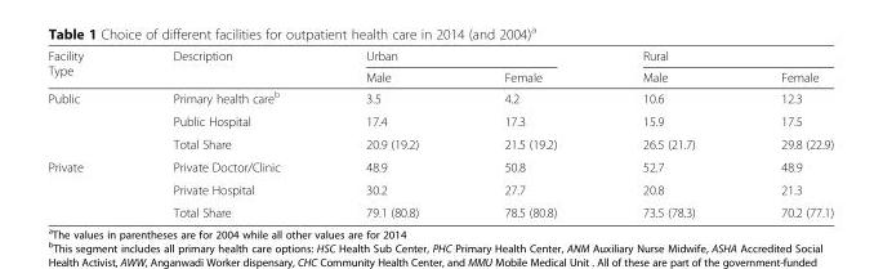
<table><thead><tr><td rowspan="2">Facility Type</td><td rowspan="2">Description</td><td colspan="2">Urban</td><td colspan="2">Rural</td></tr><tr><td>Male</td><td>Female</td><td>Male</td><td>Female</td></tr></thead><tbody><tr><td rowspan="3">Public</td><td>Primary health care<sup>b</sup></td><td>3.5</td><td>4.2</td><td>10.6</td><td>12.3</td></tr><tr><td>Public Hospital</td><td>17.4</td><td>17.3</td><td>15.9</td><td>17.5</td></tr><tr><td>Total Share</td><td>20.9 (19.2)</td><td>21.5 (19.2)</td><td>26.5 (21.7)</td><td>29.8 (22.9)</td></tr><tr><td rowspan="3">Private</td><td>Private Doctor/Clinic</td><td>48.9</td><td>50.8</td><td>52.7</td><td>48.9</td></tr><tr><td>Private Hospital</td><td>30.2</td><td>27.7</td><td>20.8</td><td>21.3</td></tr><tr><td>Total Share</td><td>79.1 (80.8)</td><td>78.5 (80.8)</td><td>73.5 (78.3)</td><td>70.2 (77.1)</td></tr></tbody></table>